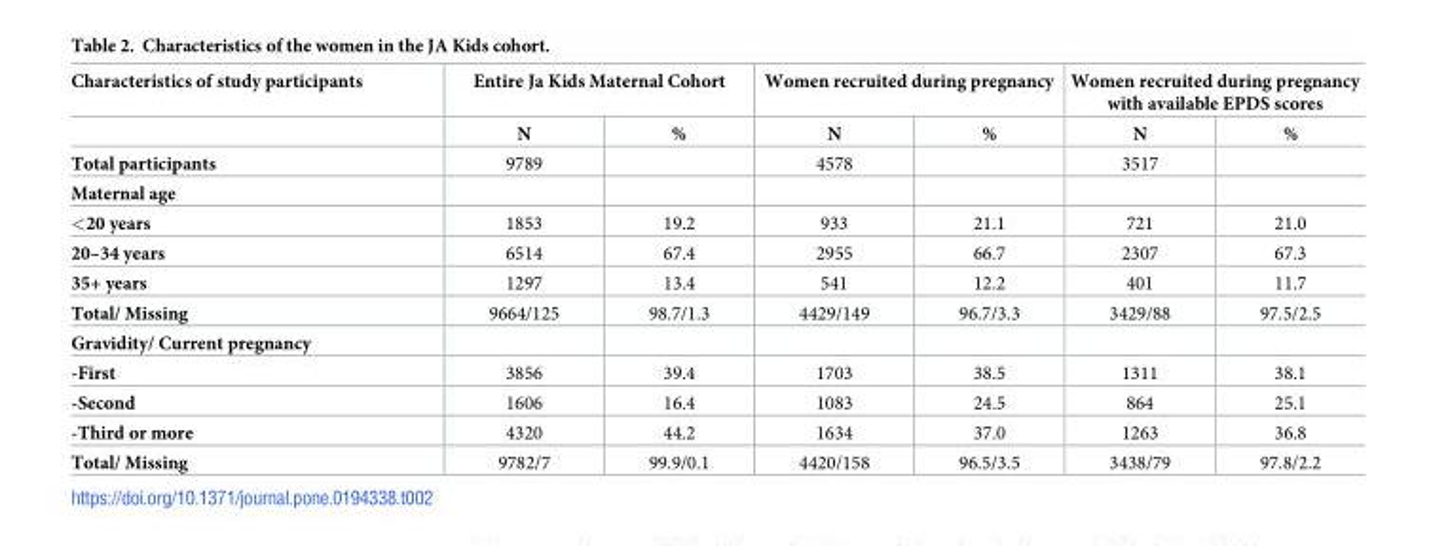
<table><thead><tr><td rowspan="2">Characteristics of study participants</td><td colspan="2">Entire Ja Kids Maternal Cohort</td><td colspan="2">Women recruited during pregnancy</td><td colspan="2">Women recruited during pregnancy with available EPDS scores</td></tr><tr><td>N</td><td>%</td><td>N</td><td>%</td><td>N</td><td>%</td></tr></thead><tbody><tr><td>Total participants</td><td>9789</td><td></td><td>4578</td><td></td><td>3517</td><td></td></tr><tr><td colspan="7">Maternal age</td></tr><tr><td>&lt;20 years</td><td>1853</td><td>19.2</td><td>933</td><td>21.1</td><td>721</td><td>21.0</td></tr><tr><td>20–34 years</td><td>6514</td><td>67.4</td><td>2955</td><td>66.7</td><td>2307</td><td>67.3</td></tr><tr><td>35+ years</td><td>1297</td><td>13.4</td><td>541</td><td>12.2</td><td>401</td><td>11.7</td></tr><tr><td>Total/ Missing</td><td>9664/125</td><td>98.7/1.3</td><td>4429/149</td><td>96.7/3.3</td><td>3429/88</td><td>97.5/2.5</td></tr><tr><td colspan="7">Gravidity/ Current pregnancy</td></tr><tr><td>-First</td><td>3856</td><td>39.4</td><td>1703</td><td>38.5</td><td>1311</td><td>38.1</td></tr><tr><td>-Second</td><td>1606</td><td>16.4</td><td>1083</td><td>24.5</td><td>864</td><td>25.1</td></tr><tr><td>-Third or more</td><td>4320</td><td>44.2</td><td>1634</td><td>37.0</td><td>1263</td><td>36.8</td></tr><tr><td>Total/ Missing</td><td>9782/7</td><td>99.9/0.1</td><td>4420/158</td><td>96.5/3.5</td><td>3438/79</td><td>97.8/2.2</td></tr></tbody></table>